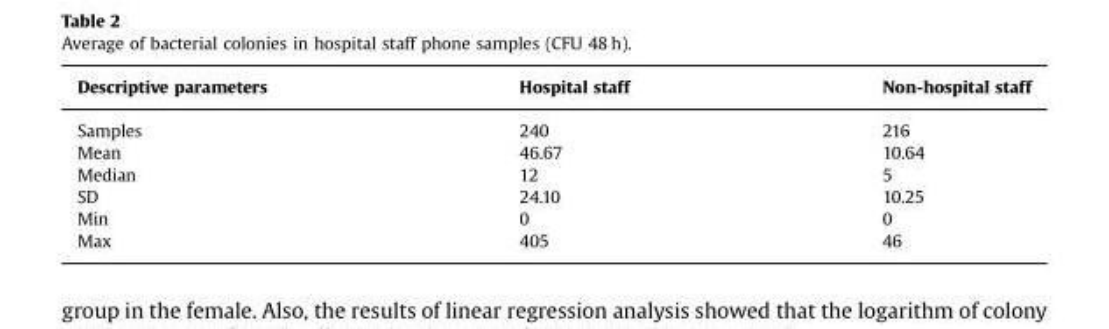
<table><thead><tr><td>Descriptive parameters</td><td>Hospital staff</td><td>Non-hospital staff</td></tr></thead><tbody><tr><td>Samples</td><td>240</td><td>216</td></tr><tr><td>Mean</td><td>46.67</td><td>10.64</td></tr><tr><td>Median</td><td>12</td><td>5</td></tr><tr><td>SD</td><td>24.10</td><td>10.25</td></tr><tr><td>Min</td><td>0</td><td>0</td></tr><tr><td>Max</td><td>405</td><td>46</td></tr></tbody></table>